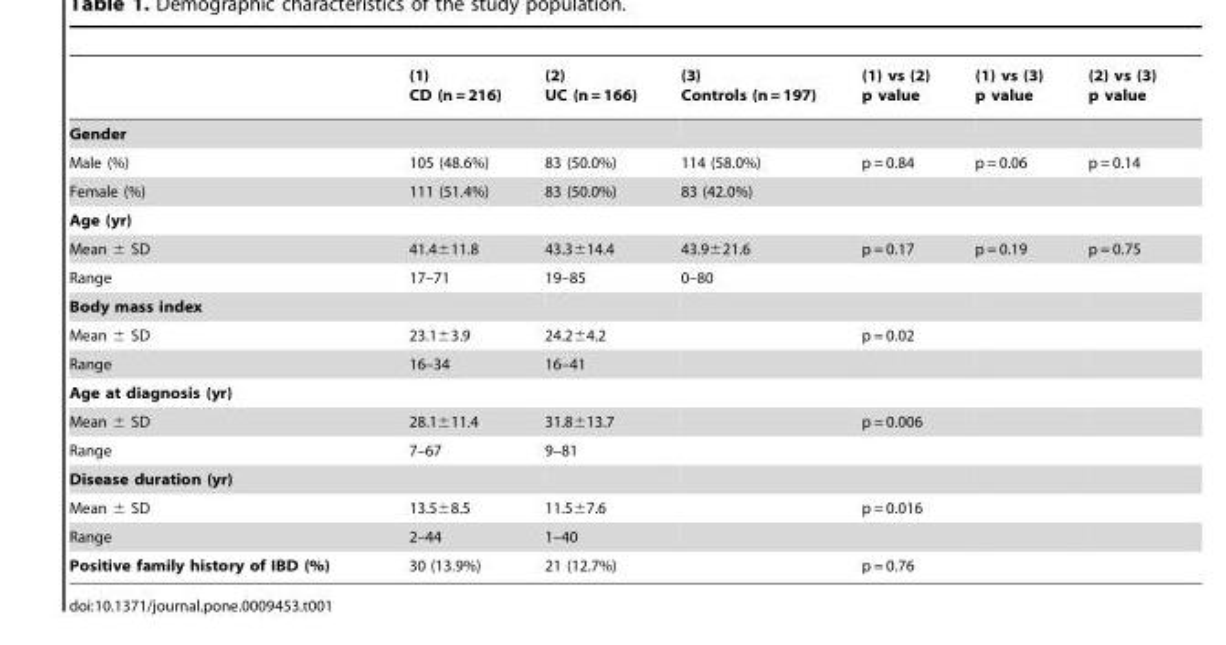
<table><thead><tr><td></td><td>(1) CD (n = 216)</td><td>(2) UC (n = 166)</td><td>(3) Controls (n = 197)</td><td>(1) vs (2) p value</td><td>(1) vs (3) p value</td><td>(2) vs (3) p value</td></tr></thead><tbody><tr><td colspan="7">Gender</td></tr><tr><td>Male (%)</td><td>105 (48.6%)</td><td>83 (50.0%)</td><td>114 (58.0%)</td><td>p = 0.84</td><td>p = 0.06</td><td>p = 0.14</td></tr><tr><td>Female (%)</td><td>111 (51.4%)</td><td>83 (50.0%)</td><td>83 (42.0%)</td><td></td><td></td><td></td></tr><tr><td colspan="7">Age (yr)</td></tr><tr><td>Mean ± SD</td><td>41.4±11.8</td><td>43.3±14.4</td><td>43.9±21.6</td><td>p = 0.17</td><td>p = 0.19</td><td>p = 0.75</td></tr><tr><td>Range</td><td>17–71</td><td>19–85</td><td>0–80</td><td></td><td></td><td></td></tr><tr><td colspan="7">Body mass index</td></tr><tr><td>Mean ± SD</td><td>23.1±3.9</td><td>24.2±4.2</td><td></td><td>p = 0.02</td><td></td><td></td></tr><tr><td>Range</td><td>16–34</td><td>16–41</td><td></td><td></td><td></td><td></td></tr><tr><td colspan="7">Age at diagnosis (yr)</td></tr><tr><td>Mean ± SD</td><td>28.1±11.4</td><td>31.8±13.7</td><td></td><td>p = 0.006</td><td></td><td></td></tr><tr><td>Range</td><td>7–67</td><td>9–81</td><td></td><td></td><td></td><td></td></tr><tr><td colspan="7">Disease duration (yr)</td></tr><tr><td>Mean ± SD</td><td>13.5±8.5</td><td>11.5±7.6</td><td></td><td>p = 0.016</td><td></td><td></td></tr><tr><td>Range</td><td>2–44</td><td>1–40</td><td></td><td></td><td></td><td></td></tr><tr><td>Positive family history of IBD (%)</td><td>30 (13.9%)</td><td>21 (12.7%)</td><td></td><td>p = 0.76</td><td></td><td></td></tr></tbody></table>